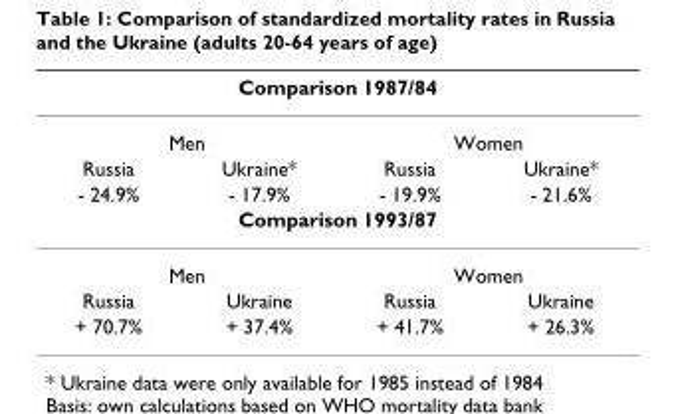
<table><thead><tr><td colspan="4">Comparison 1987/84</td></tr><tr><td colspan="2">Men</td><td colspan="2">Women</td></tr><tr><td>Russia</td><td>Ukraine*</td><td>Russia</td><td>Ukraine*</td></tr></thead><tbody><tr><td>- 24.9%</td><td>- 17.9%</td><td>- 19.9%</td><td>- 21.6%</td></tr><tr><td colspan="4">Comparison 1993/87</td></tr><tr><td colspan="2">Men</td><td colspan="2">Women</td></tr><tr><td>Russia</td><td>Ukraine</td><td>Russia</td><td>Ukraine</td></tr><tr><td>+ 70.7%</td><td>+ 37.4%</td><td>+ 41.7%</td><td>+ 26.3%</td></tr></tbody></table>